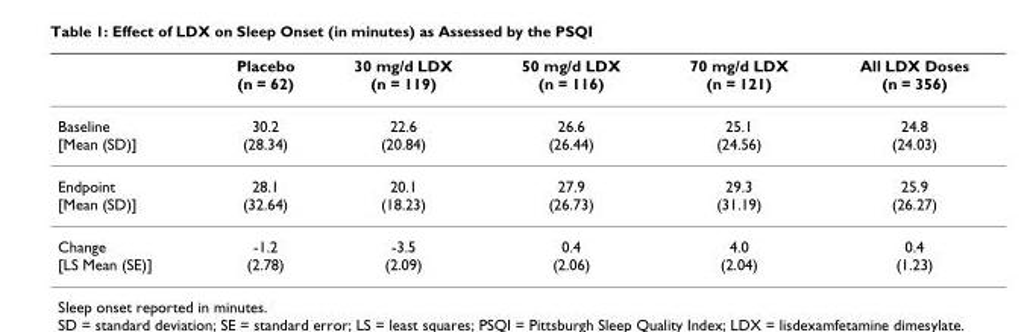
<table><thead><tr><td></td><td>Placebo (n = 62)</td><td>30 mg/d LDX (n = 119)</td><td>50 mg/d LDX (n = 116)</td><td>70 mg/d LDX (n = 121)</td><td>All LDX Doses (n = 356)</td></tr></thead><tbody><tr><td>Baseline [Mean (SD)]</td><td>30.2 (28.34)</td><td>22.6 (20.84)</td><td>26.6 (26.44)</td><td>25.1 (24.56)</td><td>24.8 (24.03)</td></tr><tr><td>Endpoint [Mean (SD)]</td><td>28.1 (32.64)</td><td>20.1 (18.23)</td><td>27.9 (26.73)</td><td>29.3 (31.19)</td><td>25.9 (26.27)</td></tr><tr><td>Change [LS Mean (SE)]</td><td>-1.2 (2.78)</td><td>-3.5 (2.09)</td><td>0.4 (2.06)</td><td>4.0 (2.04)</td><td>0.4 (1.23)</td></tr></tbody></table>